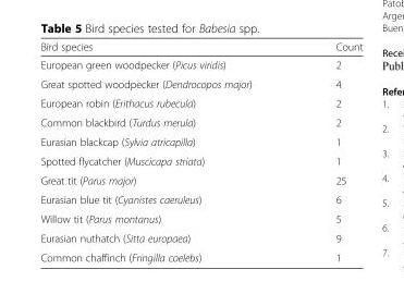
<table><thead><tr><td>Bird species</td><td>Count</td></tr></thead><tbody><tr><td>European green woodpecker (Picus viridis)</td><td>2</td></tr><tr><td>Great spotted woodpecker (Dendrocopos major)</td><td>4</td></tr><tr><td>European robin (Erithacus rubecula)</td><td>2</td></tr><tr><td>Common blackbird (Turdus merula)</td><td>2</td></tr><tr><td>Eurasian blackcap (Sylvia atricapilla)</td><td>1</td></tr><tr><td>Spotted flycatcher (Muscicapa striata)</td><td>1</td></tr><tr><td>Great tit (Parus major)</td><td>25</td></tr><tr><td>Eurasian blue tit (Cyanistes caeruleus)</td><td>6</td></tr><tr><td>Willow tit (Parus montanus)</td><td>5</td></tr><tr><td>Eurasian nuthatch (Sitta europaea)</td><td>9</td></tr><tr><td>Common chaffinch (Fringilla coelebs)</td><td>1</td></tr></tbody></table>